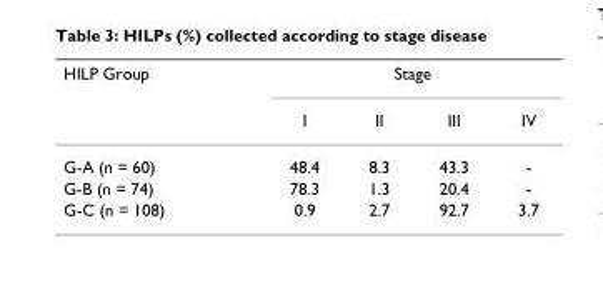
<table><thead><tr><td rowspan="2">HILP Group</td><td colspan="4">Stage</td></tr><tr><td>I</td><td>II</td><td>III</td><td>IV</td></tr></thead><tbody><tr><td>G-A (n = 60)</td><td>48.4</td><td>8.3</td><td>43.3</td><td>-</td></tr><tr><td>G-B (n = 74)</td><td>78.3</td><td>1.3</td><td>20.4</td><td>-</td></tr><tr><td>G-C (n = 108)</td><td>0.9</td><td>2.7</td><td>92.7</td><td>3.7</td></tr></tbody></table>